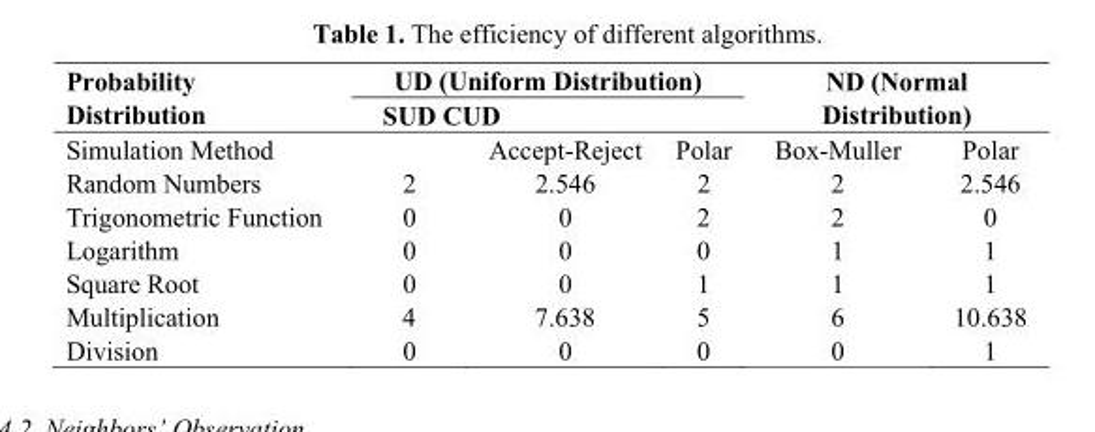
<table><thead><tr><td rowspan="3">Probability Distribution Simulation Method</td><td colspan="3">UD (Uniform Distribution)</td><td rowspan="2" colspan="2">ND (Normal Distribution)</td></tr><tr><td rowspan="2">SUD</td><td colspan="2">CUD</td></tr><tr><td>Accept-Reject</td><td>Polar</td><td>Box-Muller</td><td>Polar</td></tr></thead><tbody><tr><td>Random Numbers</td><td>2</td><td>2.546</td><td>2</td><td>2</td><td>2.546</td></tr><tr><td>Trigonometric Function</td><td>0</td><td>0</td><td>2</td><td>2</td><td>0</td></tr><tr><td>Logarithm</td><td>0</td><td>0</td><td>0</td><td>1</td><td>1</td></tr><tr><td>Square Root</td><td>0</td><td>0</td><td>1</td><td>1</td><td>1</td></tr><tr><td>Multiplication</td><td>4</td><td>7.638</td><td>5</td><td>6</td><td>10.638</td></tr><tr><td>Division</td><td>0</td><td>0</td><td>0</td><td>0</td><td>1</td></tr></tbody></table>